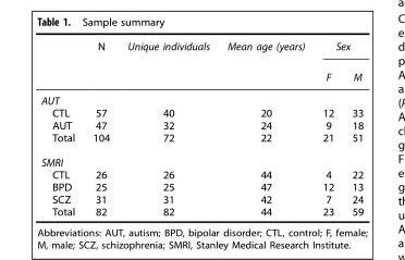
<table><thead><tr><td rowspan="2"></td><td rowspan="2">N</td><td rowspan="2">Unique individuals</td><td rowspan="2">Mean age (years)</td><td colspan="2">Sex</td></tr><tr><td>F</td><td>M</td></tr></thead><tbody><tr><td colspan="6">AUT</td></tr><tr><td>CTL</td><td>57</td><td>40</td><td>20</td><td>12</td><td>33</td></tr><tr><td>AUT</td><td>47</td><td>32</td><td>24</td><td>9</td><td>18</td></tr><tr><td>Total</td><td>104</td><td>72</td><td>22</td><td>21</td><td>51</td></tr><tr><td colspan="6">SMRI</td></tr><tr><td>CTL</td><td>26</td><td>26</td><td>44</td><td>4</td><td>22</td></tr><tr><td>BPD</td><td>25</td><td>25</td><td>47</td><td>12</td><td>13</td></tr><tr><td>SCZ</td><td>31</td><td>31</td><td>42</td><td>7</td><td>24</td></tr><tr><td>Total</td><td>82</td><td>82</td><td>44</td><td>23</td><td>59</td></tr></tbody></table>